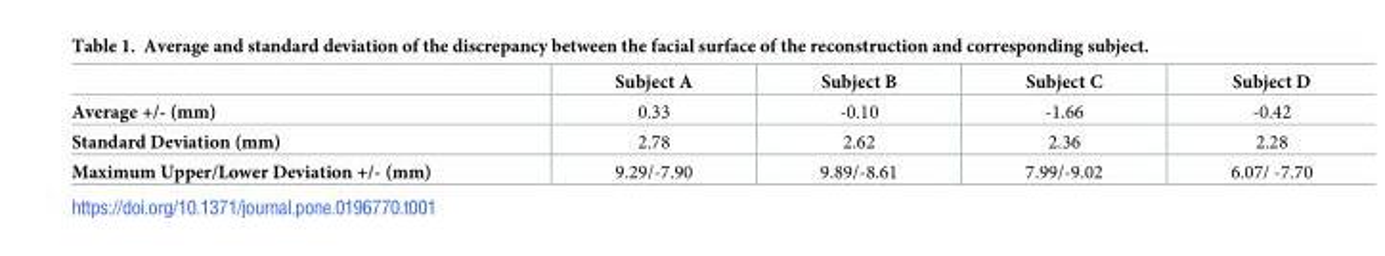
<table><thead><tr><td></td><td>Subject A</td><td>Subject B</td><td>Subject C</td><td>Subject D</td></tr></thead><tbody><tr><td>Average +/- (mm)</td><td>0.33</td><td>-0.10</td><td>-1.66</td><td>-0.42</td></tr><tr><td>Standard Deviation (mm)</td><td>2.78</td><td>2.62</td><td>2.36</td><td>2.28</td></tr><tr><td>Maximum Upper/Lower Deviation +/- (mm)</td><td>9.29/-7.90</td><td>9.89/-8.61</td><td>7.99/-9.02</td><td>6.07/ -7.70</td></tr></tbody></table>